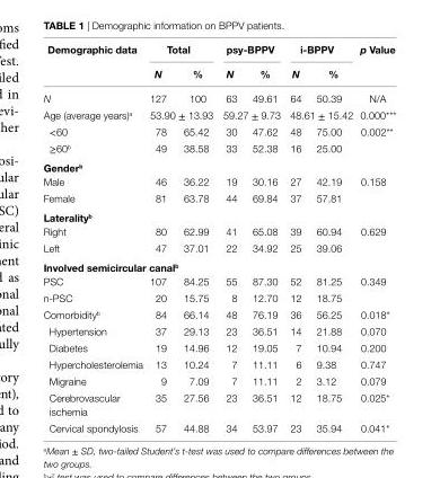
<table><thead><tr><td rowspan="2">Demographic data</td><td colspan="2">Total</td><td colspan="2">psy-BPPV</td><td colspan="2">i-BPPV</td><td rowspan="2">p Value</td></tr><tr><td>N</td><td>%</td><td>N</td><td>%</td><td>N</td><td>%</td></tr></thead><tbody><tr><td>N</td><td>127</td><td>100</td><td>63</td><td>49.61</td><td>64</td><td>50.39</td><td>N/A</td></tr><tr><td>Age (average years)<sup>a</sup></td><td colspan="2">53.90 ± 13.93</td><td colspan="2">59.27 ± 9.73</td><td colspan="2">48.61 ± 15.42</td><td>0.000***</td></tr><tr><td>&lt;60</td><td>78</td><td>65.42</td><td>30</td><td>47.62</td><td>48</td><td>75.00</td><td rowspan="2">0.002**</td></tr><tr><td>≥60<sup>b</sup></td><td>49</td><td>38.58</td><td>33</td><td>52.38</td><td>16</td><td>25.00</td></tr><tr><td colspan="8">gender<sup>b</sup></td></tr><tr><td>Male</td><td>46</td><td>36.22</td><td>19</td><td>30.16</td><td>27</td><td>42.19</td><td rowspan="2">0.158</td></tr><tr><td>Female</td><td>81</td><td>63.78</td><td>44</td><td>69.84</td><td>37</td><td>57.81</td></tr><tr><td colspan="8">laterality<sup>b</sup></td></tr><tr><td>Right</td><td>80</td><td>62.99</td><td>41</td><td>65.08</td><td>39</td><td>60.94</td><td rowspan="2">0.629</td></tr><tr><td>Left</td><td>47</td><td>37.01</td><td>22</td><td>34.92</td><td>25</td><td>39.06</td></tr><tr><td colspan="8">involved semicircular canal<sup>b</sup></td></tr><tr><td>PSC</td><td>107</td><td>84.25</td><td>55</td><td>87.30</td><td>52</td><td>81.25</td><td rowspan="2">0.349</td></tr><tr><td>n-PSC</td><td>20</td><td>15.75</td><td>8</td><td>12.70</td><td>12</td><td>18.75</td></tr><tr><td>Comorbidity<sup>b</sup></td><td>84</td><td>66.14</td><td>48</td><td>76.19</td><td>36</td><td>56.25</td><td>0.018*</td></tr><tr><td>Hypertension</td><td>37</td><td>29.13</td><td>23</td><td>36.51</td><td>14</td><td>21.88</td><td>0.070</td></tr><tr><td>Diabetes</td><td>19</td><td>14.96</td><td>12</td><td>19.05</td><td>7</td><td>10.94</td><td>0.200</td></tr><tr><td>Hypercholesterolemia</td><td>13</td><td>10.24</td><td>7</td><td>11.11</td><td>6</td><td>9.38</td><td>0.747</td></tr><tr><td>Migraine</td><td>9</td><td>7.09</td><td>7</td><td>11.11</td><td>2</td><td>3.12</td><td>0.079</td></tr><tr><td>Cerebrovascular ischemia</td><td>35</td><td>27.56</td><td>23</td><td>36.51</td><td>12</td><td>18.75</td><td>0.025*</td></tr><tr><td>Cervical spondylosis</td><td>57</td><td>44.88</td><td>34</td><td>53.97</td><td>23</td><td>35.94</td><td>0.041*</td></tr></tbody></table>